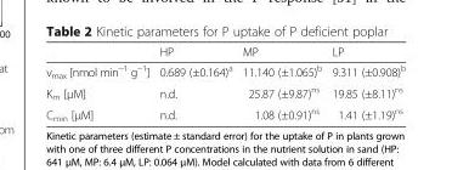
<table><thead><tr><td></td><td>HP</td><td>MP</td><td>LP</td></tr></thead><tbody><tr><td>v<sub>max</sub> [nmol min<sup>−1</sup> g<sup>−1</sup>]</td><td>0.689 (±0.164)<sup>a</sup></td><td>11.140 (±1.065)<sup>b</sup></td><td>9.311 (±0.908)<sup>b</sup></td></tr><tr><td>K<sub>m</sub> [μM]</td><td>n.d.</td><td>25.87 (±9.87)<sup>ns</sup></td><td>19.85 (±8.11)<sup>ns</sup></td></tr><tr><td>C<sub>min</sub> [μM]</td><td>n.d.</td><td>1.08 (±0.91)<sup>ns</sup></td><td>1.41 (±1.19)<sup>ns</sup></td></tr></tbody></table>